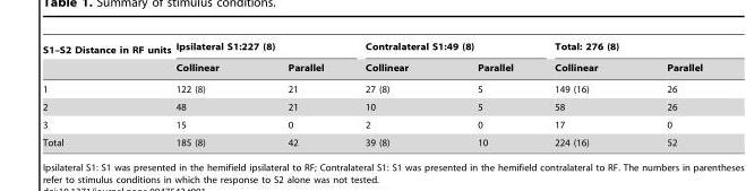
<table><thead><tr><td rowspan="2">S1–S2 Distance in RF units</td><td colspan="2">Ipsilateral S1:227 (8)</td><td colspan="2">Contralateral S1:49 (8)</td><td colspan="2">Total: 276 (8)</td></tr><tr><td>Collinear</td><td>Parallel</td><td>Collinear</td><td>Parallel</td><td>Collinear</td><td>Parallel</td></tr></thead><tbody><tr><td>1</td><td>122 (8)</td><td>21</td><td>27 (8)</td><td>5</td><td>149 (16)</td><td>26</td></tr><tr><td>2</td><td>48</td><td>21</td><td>10</td><td>5</td><td>58</td><td>26</td></tr><tr><td>3</td><td>15</td><td>0</td><td>2</td><td>0</td><td>17</td><td>0</td></tr><tr><td>Total</td><td>185 (8)</td><td>42</td><td>39 (8)</td><td>10</td><td>224 (16)</td><td>52</td></tr></tbody></table>